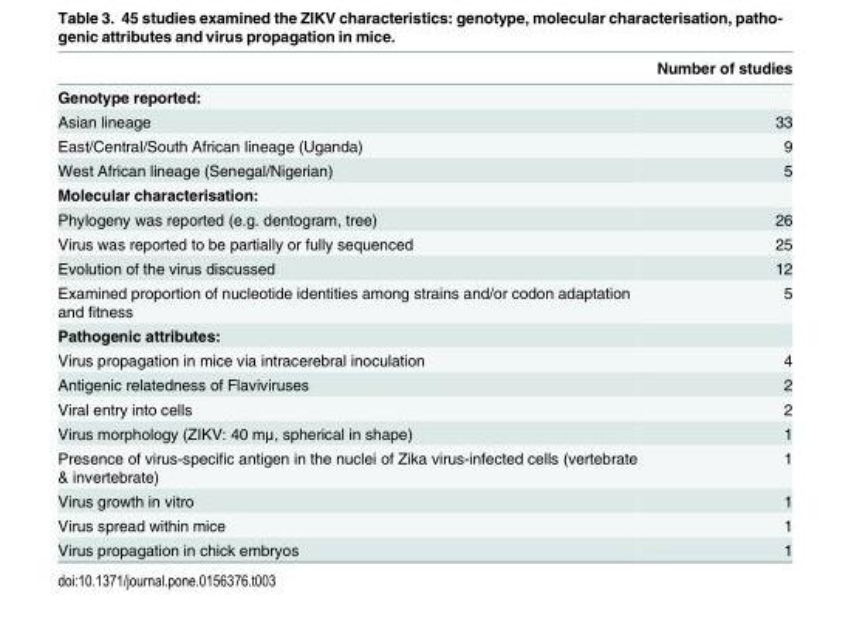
<table><thead><tr><td></td><td>Number of studies</td></tr></thead><tbody><tr><td colspan="2">Genotype reported:</td></tr><tr><td>Asian lineage</td><td>33</td></tr><tr><td>East/Central/South African lineage (Uganda)</td><td>9</td></tr><tr><td>West African lineage (Senegal/Nigerian)</td><td>5</td></tr><tr><td colspan="2">Molecular characterisation:</td></tr><tr><td>Phylogeny was reported (e.g. dentogram, tree)</td><td>26</td></tr><tr><td>Virus was reported to be partially or fully sequenced</td><td>25</td></tr><tr><td>Evolution of the virus discussed</td><td>12</td></tr><tr><td>Examined proportion of nucleotide identities among strains and/or codon adaptation and fitness</td><td>5</td></tr><tr><td colspan="2">Pathogenic attributes:</td></tr><tr><td>Virus propagation in mice via intracerebral inoculation</td><td>4</td></tr><tr><td>Antigenic relatedness of Flaviviruses</td><td>2</td></tr><tr><td>Viral entry into cells</td><td>2</td></tr><tr><td>Virus morphology (ZIKV: 40 mµ, spherical in shape)</td><td>1</td></tr><tr><td>Presence of virus-specific antigen in the nuclei of Zika virus-infected cells (vertebrate &amp; invertebrate)</td><td>1</td></tr><tr><td>Virus growth in vitro</td><td>1</td></tr><tr><td>Virus spread within mice</td><td>1</td></tr><tr><td>Virus propagation in chick embryos</td><td>1</td></tr></tbody></table>